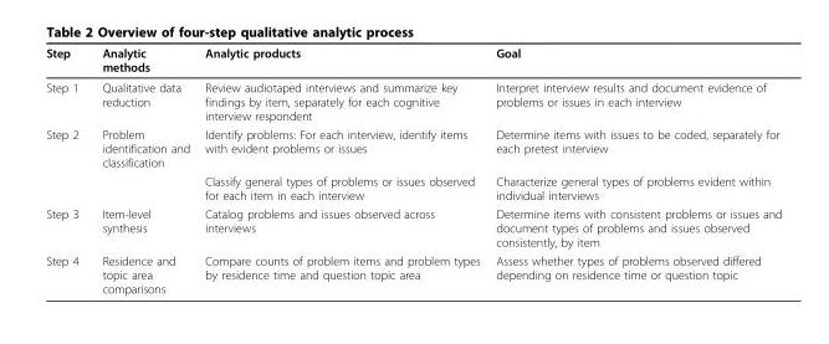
<table><thead><tr><td>Step</td><td>Analytic methods</td><td>Analytic products</td><td>Goal</td></tr></thead><tbody><tr><td>Step 1</td><td>Qualitative data reduction</td><td>Review audiotaped interviews and summarize key findings by item, separately for each cognitive interview respondent</td><td>Interpret interview results and document evidence of problems or issues in each interview</td></tr><tr><td rowspan="2">Step 2</td><td>Problem identification and classification</td><td>Identify problems: For each interview, identify items with evident problems or issues</td><td>Determine items with issues to be coded, separately for each pretest interview</td></tr><tr><td></td><td>Classify general types of problems or issues observed for each item in each interview</td><td>Characterize general types of problems evident within individual interviews</td></tr><tr><td>Step 3</td><td>Item-level synthesis</td><td>Catalog problems and issues observed across interviews</td><td>Determine items with consistent problems or issues and document types of problems and issues observed consistently, by item</td></tr><tr><td>Step 4</td><td>Residence and topic area comparisons</td><td>Compare counts of problem items and problem types by residence time and question topic area</td><td>Assess whether types of problems observed differed depending on residence time or question topic</td></tr></tbody></table>